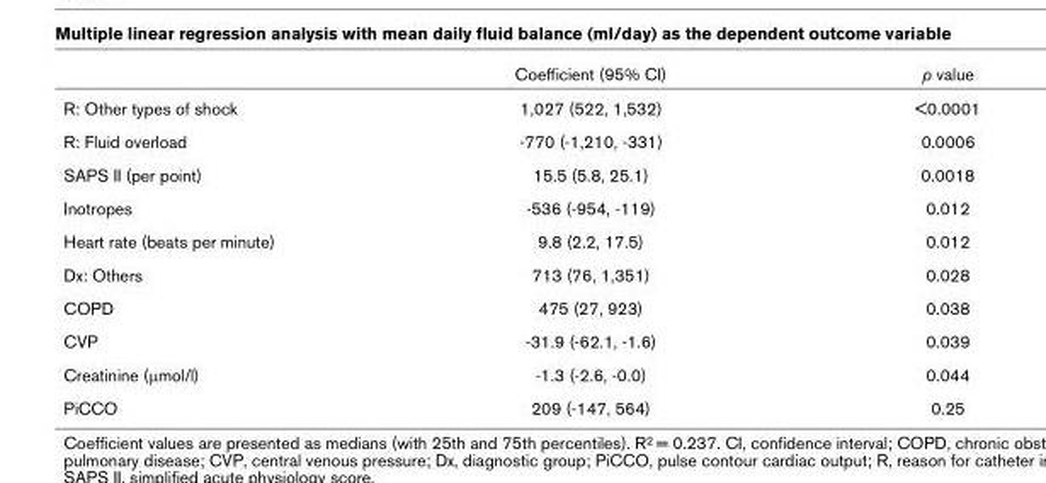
<table><thead><tr><td></td><td>Coefficient (95% CI)</td><td>p value</td></tr></thead><tbody><tr><td>R: Other types of shock</td><td>1,027 (522, 1,532)</td><td>&lt;0.0001</td></tr><tr><td>R: Fluid overload</td><td>-770 (-1,210, -331)</td><td>0.0006</td></tr><tr><td>SAPS II (per point)</td><td>15.5 (5.8, 25.1)</td><td>0.0018</td></tr><tr><td>Inotropes</td><td>-536 (-954, -119)</td><td>0.012</td></tr><tr><td>Heart rate (beats per minute)</td><td>9.8 (2.2, 17.5)</td><td>0.012</td></tr><tr><td>Dx: Others</td><td>713 (76, 1,351)</td><td>0.028</td></tr><tr><td>COPD</td><td>475 (27, 923)</td><td>0.038</td></tr><tr><td>CVP</td><td>-31.9 (-62.1, -1.6)</td><td>0.039</td></tr><tr><td>Creatinine (μmol/l)</td><td>-1.3 (-2.6, -0.0)</td><td>0.044</td></tr><tr><td>PiCCO</td><td>209 (-147, 564)</td><td>0.25</td></tr></tbody></table>